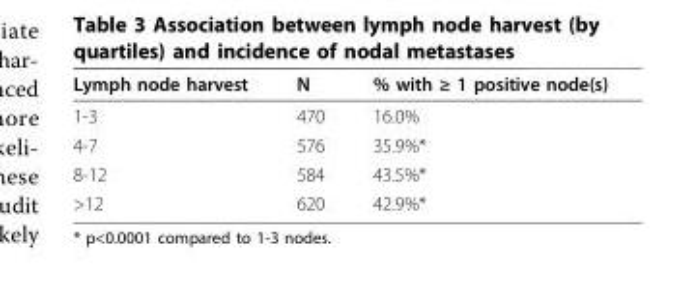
<table><thead><tr><td>Lymph node harvest</td><td>N</td><td>% with ≥ 1 positive node(s)</td></tr></thead><tbody><tr><td>1-3</td><td>470</td><td>16.0%</td></tr><tr><td>4-7</td><td>576</td><td>35.9%*</td></tr><tr><td>8-12</td><td>584</td><td>43.5%*</td></tr><tr><td>&gt;12</td><td>620</td><td>42.9%*</td></tr></tbody></table>